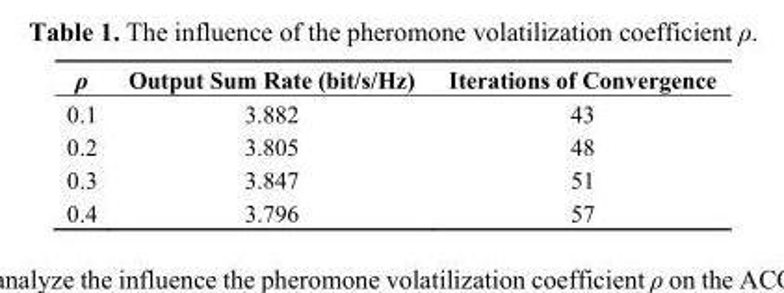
<table><thead><tr><td>ρ</td><td>Output Sum Rate (bit/s/Hz)</td><td>Iterations of Convergence</td></tr></thead><tbody><tr><td>0.1</td><td>3.882</td><td>43</td></tr><tr><td>0.2</td><td>3.805</td><td>48</td></tr><tr><td>0.3</td><td>3.847</td><td>51</td></tr><tr><td>0.4</td><td>3.796</td><td>57</td></tr></tbody></table>